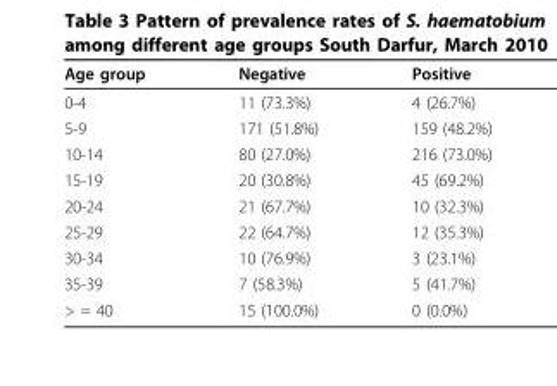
<table><thead><tr><td>Age group</td><td>Negative</td><td>Positive</td></tr></thead><tbody><tr><td>0-4</td><td>11 (73.3%)</td><td>4 (26.7%)</td></tr><tr><td>5-9</td><td>171 (51.8%)</td><td>159 (48.2%)</td></tr><tr><td>10-14</td><td>80 (27.0%)</td><td>216 (73.0%)</td></tr><tr><td>15-19</td><td>20 (30.8%)</td><td>45 (69.2%)</td></tr><tr><td>20-24</td><td>21 (67.7%)</td><td>10 (32.3%)</td></tr><tr><td>25-29</td><td>22 (64.7%)</td><td>12 (35.3%)</td></tr><tr><td>30-34</td><td>10 (76.9%)</td><td>3 (23.1%)</td></tr><tr><td>35-39</td><td>7 (58.3%)</td><td>5 (41.7%)</td></tr><tr><td>&gt; = 40</td><td>15 (100.0%)</td><td>0 (0.0%)</td></tr></tbody></table>